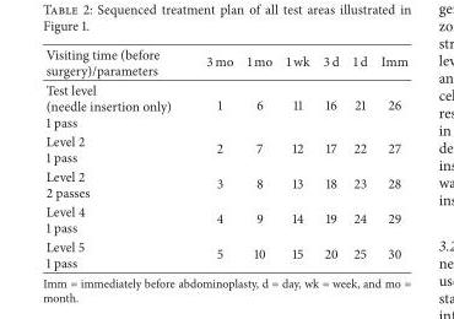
<table><thead><tr><td>Visiting time (before surgery)/parameters</td><td>3 mo</td><td>1 mo</td><td>1 wk</td><td>3 d</td><td>1 d</td><td>Imm</td></tr></thead><tbody><tr><td>Test level (needle insertion only) 1 pass</td><td>1</td><td>6</td><td>11</td><td>16</td><td>21</td><td>26</td></tr><tr><td>Level 2 1 pass</td><td>2</td><td>7</td><td>12</td><td>17</td><td>22</td><td>27</td></tr><tr><td>Level 2 2 passes</td><td>3</td><td>8</td><td>13</td><td>18</td><td>23</td><td>28</td></tr><tr><td>Level 4 1 pass</td><td>4</td><td>9</td><td>14</td><td>19</td><td>24</td><td>29</td></tr><tr><td>Level 5 1 pass</td><td>5</td><td>10</td><td>15</td><td>20</td><td>25</td><td>30</td></tr></tbody></table>